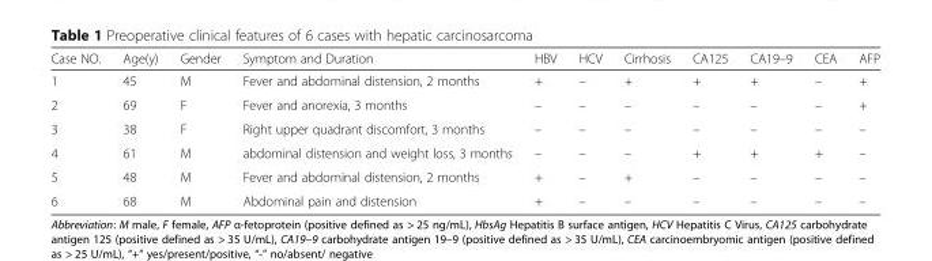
<table><thead><tr><td>Case NO.</td><td>Age(y)</td><td>Gender</td><td>Symptom and Duration</td><td>HBV</td><td>HCV</td><td>Cirrhosis</td><td>CA125</td><td>CA19–9</td><td>CEA</td><td>AFP</td></tr></thead><tbody><tr><td>1</td><td>45</td><td>M</td><td>Fever and abdominal distension, 2 months</td><td>+</td><td>–</td><td>+</td><td>+</td><td>+</td><td>–</td><td>+</td></tr><tr><td>2</td><td>69</td><td>F</td><td>Fever and anorexia, 3 months</td><td>–</td><td>–</td><td>–</td><td>–</td><td>–</td><td>–</td><td>+</td></tr><tr><td>3</td><td>38</td><td>F</td><td>Right upper quadrant discomfort, 3 months</td><td>–</td><td>–</td><td>–</td><td>–</td><td>–</td><td>–</td><td>–</td></tr><tr><td>4</td><td>61</td><td>M</td><td>abdominal distension and weight loss, 3 months</td><td>–</td><td>–</td><td>–</td><td>+</td><td>+</td><td>+</td><td>–</td></tr><tr><td>5</td><td>48</td><td>M</td><td>Fever and abdominal distension, 2 months</td><td>+</td><td>–</td><td>+</td><td>–</td><td>–</td><td>–</td><td>–</td></tr><tr><td>6</td><td>68</td><td>M</td><td>Abdominal pain and distension</td><td>+</td><td>–</td><td>–</td><td>–</td><td>–</td><td>–</td><td>–</td></tr></tbody></table>